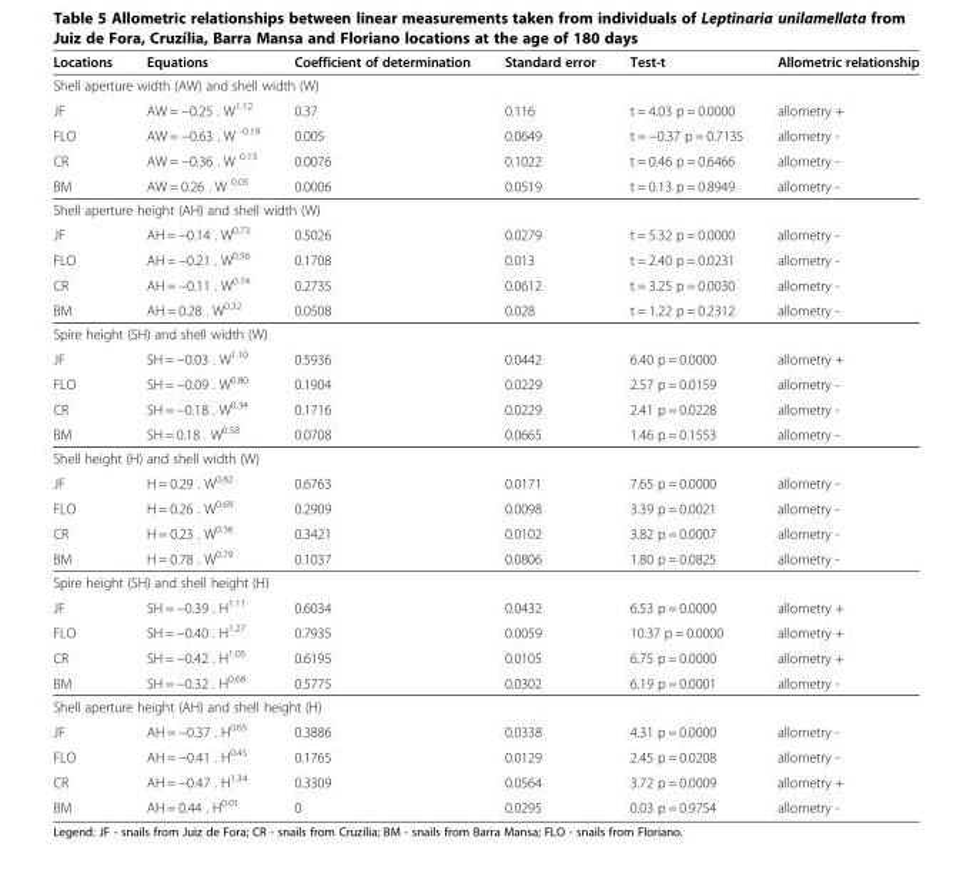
<table><thead><tr><td>Locations</td><td>Equations</td><td>Coefficient of determination</td><td>Standard error</td><td>Test-t</td><td>Allometric relationship</td></tr></thead><tbody><tr><td colspan="6">Shell aperture width (AW) and shell width (W)</td></tr><tr><td>JF</td><td>AW = −0.25 . W<sup>1.12</sup></td><td>0.37</td><td>0.116</td><td>t = 4.03 p = 0.0000</td><td>allometry +</td></tr><tr><td>FLO</td><td>AW = −0.63 . W <sup>-0.19</sup></td><td>0.005</td><td>0.0649</td><td>t = −0.37 p = 0.7135</td><td>allometry -</td></tr><tr><td>CR</td><td>AW = −0.36 . W <sup>0.13</sup></td><td>0.0076</td><td>0.1022</td><td>t = 0.46 p = 0.6466</td><td>allometry -</td></tr><tr><td>BM</td><td>AW = 0.26 . W <sup>0.05</sup></td><td>0.0006</td><td>0.0519</td><td>t = 0.13 p = 0.8949</td><td>allometry -</td></tr><tr><td colspan="6">Shell aperture height (AH) and shell width (W)</td></tr><tr><td>JF</td><td>AH = −0.14 . W<sup>0.73</sup></td><td>0.5026</td><td>0.0279</td><td>t = 5.32 p = 0.0000</td><td>allometry -</td></tr><tr><td>FLO</td><td>AH = −0.21 . W<sup>0.56</sup></td><td>0.1708</td><td>0.013</td><td>t = 2.40 p = 0.0231</td><td>allometry -</td></tr><tr><td>CR</td><td>AH = −0.11 . W<sup>0.74</sup></td><td>0.2735</td><td>0.0612</td><td>t = 3.25 p = 0.0030</td><td>allometry -</td></tr><tr><td>BM</td><td>AH = 0.28 . W<sup>0.32</sup></td><td>0.0508</td><td>0.028</td><td>t = 1.22 p = 0.2312</td><td>allometry -</td></tr><tr><td colspan="6">Spire height (SH) and shell width (W)</td></tr><tr><td>JF</td><td>SH = −0.03 . W<sup>1.10</sup></td><td>0.5936</td><td>0.0442</td><td>6.40 p = 0.0000</td><td>allometry +</td></tr><tr><td>FLO</td><td>SH = −0.09 . W<sup>0.80</sup></td><td>0.1904</td><td>0.0229</td><td>2.57 p = 0.0159</td><td>allometry -</td></tr><tr><td>CR</td><td>SH = −0.18 . W<sup>0.34</sup></td><td>0.1716</td><td>0.0229</td><td>2.41 p = 0.0228</td><td>allometry -</td></tr><tr><td>BM</td><td>SH = 0.18 . W<sup>0.58</sup></td><td>0.0708</td><td>0.0665</td><td>1.46 p = 0.1553</td><td>allometry -</td></tr><tr><td colspan="6">Shell height (H) and shell width (W)</td></tr><tr><td>JF</td><td>H = 0.29 . W<sup>0.82</sup></td><td>0.6763</td><td>0.0171</td><td>7.65 p = 0.0000</td><td>allometry -</td></tr><tr><td>FLO</td><td>H = 0.26 . W<sup>0.69</sup></td><td>0.2909</td><td>0.0098</td><td>3.39 p = 0.0021</td><td>allometry -</td></tr><tr><td>CR</td><td>H = 0.23 . W<sup>0.36</sup></td><td>0.3421</td><td>0.0102</td><td>3.82 p = 0.0007</td><td>allometry -</td></tr><tr><td>BM</td><td>H = 0.78 . W<sup>0.79</sup></td><td>0.1037</td><td>0.0806</td><td>1.80 p = 0.0825</td><td>allometry -</td></tr><tr><td colspan="6">Spire height (SH) and shell height (H)</td></tr><tr><td>JF</td><td>SH = −0.39 . H<sup>1.11</sup></td><td>0.6034</td><td>0.0432</td><td>6.53 p = 0.0000</td><td>allometry +</td></tr><tr><td>FLO</td><td>SH = −0.40 . H<sup>1.27</sup></td><td>0.7935</td><td>0.0059</td><td>10.37 p = 0.0000</td><td>allometry +</td></tr><tr><td>CR</td><td>SH = −0.42 . H<sup>1.05</sup></td><td>0.6195</td><td>0.0105</td><td>6.75 p = 0.0000</td><td>allometry +</td></tr><tr><td>BM</td><td>SH = −0.32 . H<sup>0.68</sup></td><td>0.5775</td><td>0.0302</td><td>6.19 p = 0.0001</td><td>allometry -</td></tr><tr><td colspan="6">Shell aperture height (AH) and shell height (H)</td></tr><tr><td>JF</td><td>AH = −0.37 . H<sup>0.65</sup></td><td>0.3886</td><td>0.0338</td><td>4.31 p = 0.0000</td><td>allometry -</td></tr><tr><td>FLO</td><td>AH = −0.41 . H<sup>0.45</sup></td><td>0.1765</td><td>0.0129</td><td>2.45 p = 0.0208</td><td>allometry -</td></tr><tr><td>CR</td><td>AH = −0.47 . H<sup>1.34</sup></td><td>0.3309</td><td>0.0564</td><td>3.72 p = 0.0009</td><td>allometry +</td></tr><tr><td>BM</td><td>AH = 0.44 . H<sup>0.01</sup></td><td>0</td><td>0.0295</td><td>0.03 p = 0.9754</td><td>allometry -</td></tr></tbody></table>